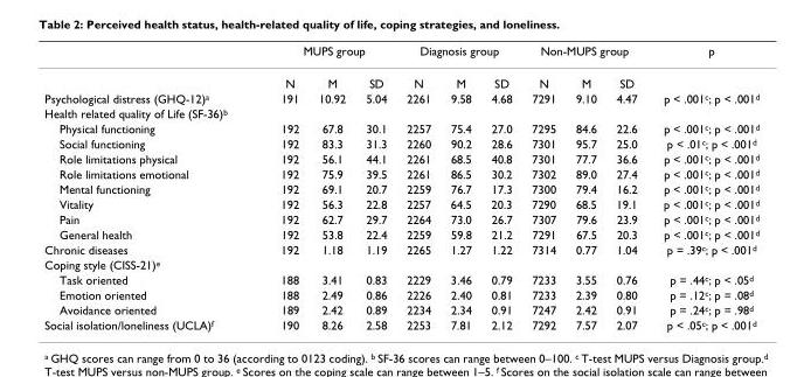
<table><thead><tr><td rowspan="2"></td><td colspan="3">MUPS group</td><td colspan="3">Diagnosis group</td><td colspan="3">Non-MUPS group</td><td rowspan="2">p</td></tr><tr><td>N</td><td>M</td><td>SD</td><td>N</td><td>M</td><td>SD</td><td>N</td><td>M</td><td>SD</td></tr></thead><tbody><tr><td>Psychological distress (GHQ-12)<sup>a</sup></td><td>191</td><td>10.92</td><td>5.04</td><td>2261</td><td>9.58</td><td>4.68</td><td>7291</td><td>9.10</td><td>4.47</td><td>p &lt; .001<sup>c</sup>; p &lt; .001<sup>d</sup></td></tr><tr><td colspan="11">Health related quality of Life (SF-36)<sup>b</sup></td></tr><tr><td>Physical functioning</td><td>192</td><td>67.8</td><td>30.1</td><td>2257</td><td>75.4</td><td>27.0</td><td>7295</td><td>84.6</td><td>22.6</td><td>p &lt; .001<sup>c</sup>; p &lt; .001<sup>d</sup></td></tr><tr><td>Social functioning</td><td>192</td><td>83.3</td><td>31.3</td><td>2260</td><td>90.2</td><td>28.6</td><td>7301</td><td>95.7</td><td>25.0</td><td>p &lt; .01<sup>c</sup>; p &lt; .001<sup>d</sup></td></tr><tr><td>Role limitations physical</td><td>192</td><td>56.1</td><td>44.1</td><td>2261</td><td>68.5</td><td>40.8</td><td>7301</td><td>77.7</td><td>36.6</td><td>p &lt; .001<sup>c</sup>; p &lt; .001<sup>d</sup></td></tr><tr><td>Role limitations emotional</td><td>192</td><td>75.9</td><td>39.5</td><td>2261</td><td>86.5</td><td>30.2</td><td>7302</td><td>89.0</td><td>27.4</td><td>p &lt; .001<sup>c</sup>; p &lt; .001<sup>d</sup></td></tr><tr><td>Mental functioning</td><td>192</td><td>69.1</td><td>20.7</td><td>2259</td><td>76.7</td><td>17.3</td><td>7300</td><td>79.4</td><td>16.2</td><td>p &lt; .001<sup>c</sup>; p &lt; .001<sup>d</sup></td></tr><tr><td>Vitality</td><td>192</td><td>56.3</td><td>22.8</td><td>2257</td><td>64.5</td><td>20.3</td><td>7290</td><td>68.5</td><td>19.1</td><td>p &lt; .001<sup>c</sup>; p &lt; .001<sup>d</sup></td></tr><tr><td>Pain</td><td>192</td><td>62.7</td><td>29.7</td><td>2264</td><td>73.0</td><td>26.7</td><td>7307</td><td>79.6</td><td>23.9</td><td>p &lt; .001<sup>c</sup>; p &lt; .001<sup>d</sup></td></tr><tr><td>General health</td><td>192</td><td>53.8</td><td>22.4</td><td>2259</td><td>59.8</td><td>21.2</td><td>7291</td><td>67.5</td><td>20.3</td><td>p &lt; .001<sup>c</sup>; p &lt; .001<sup>d</sup></td></tr><tr><td>Chronic diseases</td><td>192</td><td>1.18</td><td>1.19</td><td>2265</td><td>1.27</td><td>1.22</td><td>7314</td><td>0.77</td><td>1.04</td><td>p = .39<sup>c</sup>; p &lt; .001<sup>d</sup></td></tr><tr><td colspan="11">Coping style (CISS-21)<sup>e</sup></td></tr><tr><td>Task oriented</td><td>188</td><td>3.41</td><td>0.83</td><td>2229</td><td>3.46</td><td>0.79</td><td>7233</td><td>3.55</td><td>0.76</td><td>p = .44<sup>c</sup>; p &lt; .05<sup>d</sup></td></tr><tr><td>Emotion oriented</td><td>188</td><td>2.49</td><td>0.86</td><td>2226</td><td>2.40</td><td>0.81</td><td>7233</td><td>2.39</td><td>0.80</td><td>p = .12<sup>c</sup>; p = .08<sup>d</sup></td></tr><tr><td>Avoidance oriented</td><td>189</td><td>2.42</td><td>0.89</td><td>2234</td><td>2.34</td><td>0.91</td><td>7247</td><td>2.42</td><td>0.91</td><td>p = .24<sup>c</sup>; p = .98<sup>d</sup></td></tr><tr><td>Social isolation/loneliness (UCLA)<sup>f</sup></td><td>190</td><td>8.26</td><td>2.58</td><td>2253</td><td>7.81</td><td>2.12</td><td>7292</td><td>7.57</td><td>2.07</td><td>p &lt; .05<sup>c</sup>; p &lt; .001<sup>d</sup></td></tr></tbody></table>